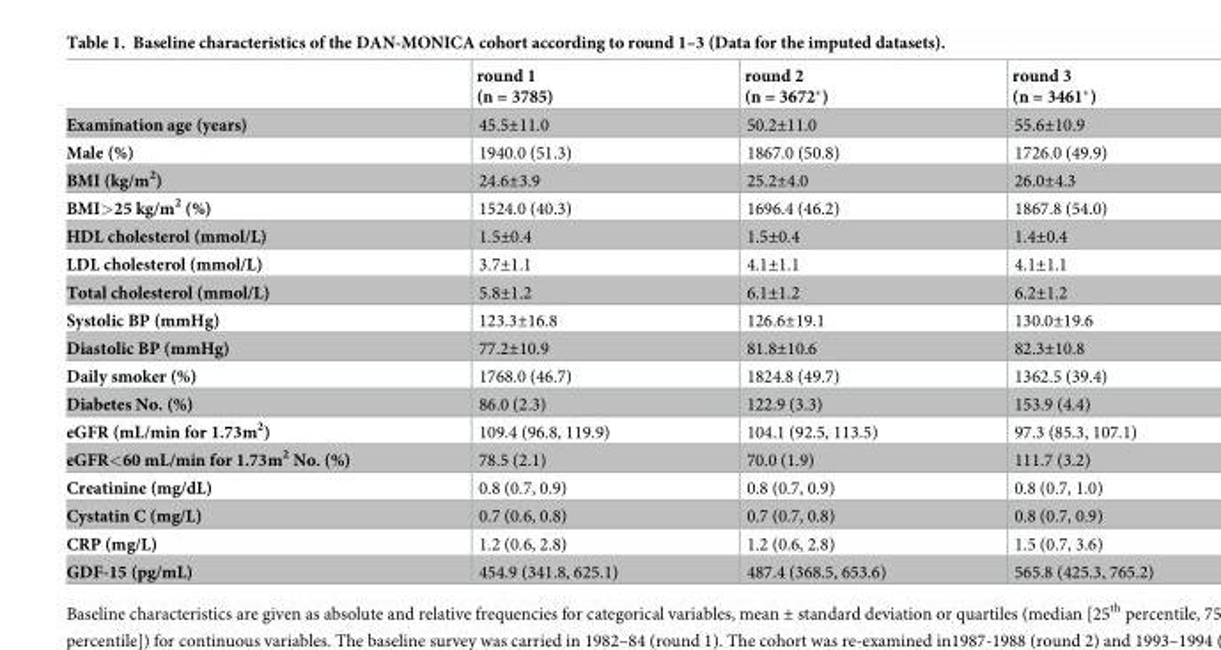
<table><thead><tr><td></td><td>round 1 (n = 3785)</td><td>round 2 (n = 3672*)</td><td>round 3 (n = 3461*)</td></tr></thead><tbody><tr><td>Examination age (years)</td><td>45.5±11.0</td><td>50.2±11.0</td><td>55.6±10.9</td></tr><tr><td>Male (%)</td><td>1940.0 (51.3)</td><td>1867.0 (50.8)</td><td>1726.0 (49.9)</td></tr><tr><td>BMI (kg/m<sup>2</sup>)</td><td>24.6±3.9</td><td>25.2±4.0</td><td>26.0±4.3</td></tr><tr><td>BMI&gt;25 kg/m<sup>2</sup> (%)</td><td>1524.0 (40.3)</td><td>1696.4 (46.2)</td><td>1867.8 (54.0)</td></tr><tr><td>HDL cholesterol (mmol/L)</td><td>1.5±0.4</td><td>1.5±0.4</td><td>1.4±0.4</td></tr><tr><td>LDL cholesterol (mmol/L)</td><td>3.7±1.1</td><td>4.1±1.1</td><td>4.1±1.1</td></tr><tr><td>Total cholesterol (mmol/L)</td><td>5.8±1.2</td><td>6.1±1.2</td><td>6.2±1.2</td></tr><tr><td>Systolic BP (mmHg)</td><td>123.3±16.8</td><td>126.6±19.1</td><td>130.0±19.6</td></tr><tr><td>Diastolic BP (mmHg)</td><td>77.2±10.9</td><td>81.8±10.6</td><td>82.3±10.8</td></tr><tr><td>Daily smoker (%)</td><td>1768.0 (46.7)</td><td>1824.8 (49.7)</td><td>1362.5 (39.4)</td></tr><tr><td>Diabetes No. (%)</td><td>86.0 (2.3)</td><td>122.9 (3.3)</td><td>153.9 (4.4)</td></tr><tr><td>eGFR (mL/min for 1.73m<sup>2</sup>)</td><td>109.4 (96.8, 119.9)</td><td>104.1 (92.5, 113.5)</td><td>97.3 (85.3, 107.1)</td></tr><tr><td>eGFR&lt;60 mL/min for 1.73m<sup>2</sup> No. (%)</td><td>78.5 (2.1)</td><td>70.0 (1.9)</td><td>111.7 (3.2)</td></tr><tr><td>Creatinine (mg/dL)</td><td>0.8 (0.7, 0.9)</td><td>0.8 (0.7, 0.9)</td><td>0.8 (0.7, 1.0)</td></tr><tr><td>Cystatin C (mg/L)</td><td>0.7 (0.6, 0.8)</td><td>0.7 (0.7, 0.8)</td><td>0.8 (0.7, 0.9)</td></tr><tr><td>CRP (mg/L)</td><td>1.2 (0.6, 2.8)</td><td>1.2 (0.6, 2.8)</td><td>1.5 (0.7, 3.6)</td></tr><tr><td>GDF-15 (pg/mL)</td><td>454.9 (341.8, 625.1)</td><td>487.4 (368.5, 653.6)</td><td>565.8 (425.3, 765.2)</td></tr></tbody></table>